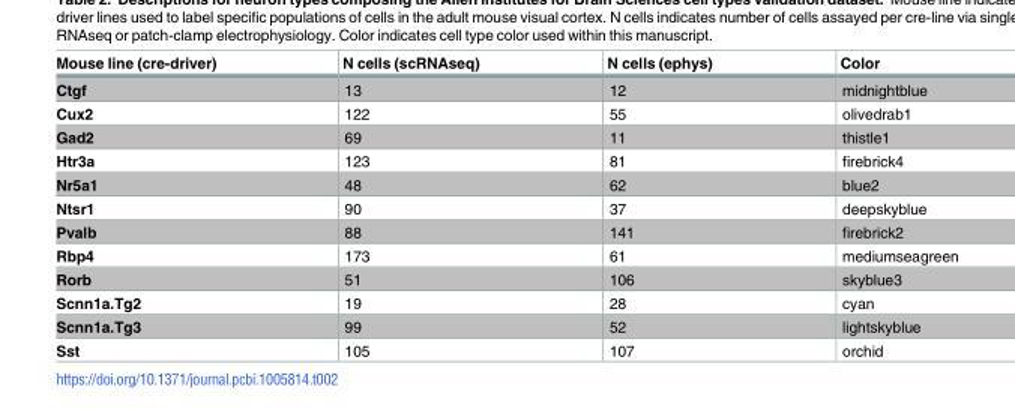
<table><thead><tr><td>Mouse line (cre-driver)</td><td>N cells (scRNAseq)</td><td>N cells (ephys)</td><td>Color</td></tr></thead><tbody><tr><td>Ctgf</td><td>13</td><td>12</td><td>midnightblue</td></tr><tr><td>Cux2</td><td>122</td><td>55</td><td>olivedrab1</td></tr><tr><td>Gad2</td><td>69</td><td>11</td><td>thistle1</td></tr><tr><td>Htr3a</td><td>123</td><td>81</td><td>firebrick4</td></tr><tr><td>Nr5a1</td><td>48</td><td>62</td><td>blue2</td></tr><tr><td>Ntsr1</td><td>90</td><td>37</td><td>deepskyblue</td></tr><tr><td>Pvalb</td><td>88</td><td>141</td><td>firebrick2</td></tr><tr><td>Rbp4</td><td>173</td><td>61</td><td>mediumseagreen</td></tr><tr><td>Rorb</td><td>51</td><td>106</td><td>skyblue3</td></tr><tr><td>Scnn1a.Tg2</td><td>19</td><td>28</td><td>cyan</td></tr><tr><td>Scnn1a.Tg3</td><td>99</td><td>52</td><td>lightskyblue</td></tr><tr><td>Sst</td><td>105</td><td>107</td><td>orchid</td></tr></tbody></table>